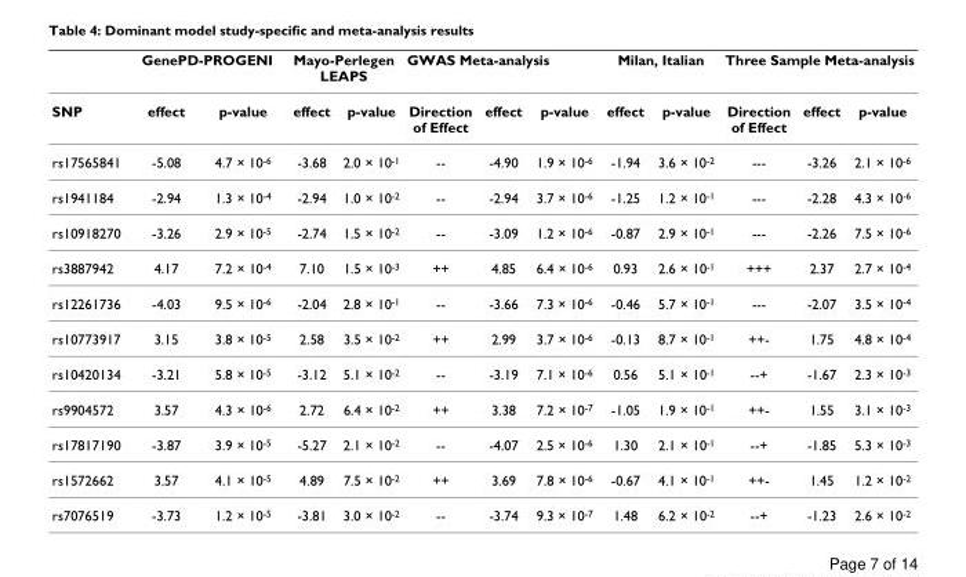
<table><thead><tr><td rowspan="2">SNP</td><td colspan="2">GenePD-PROGENI</td><td colspan="2">Mayo-Perlegen LEAPS</td><td colspan="3">GWAS Meta-analysis</td><td colspan="2">Milan, Italian</td><td colspan="3">Three Sample Meta-analysis</td></tr><tr><td>effect</td><td>p-value</td><td>effect</td><td>p-value</td><td>Direction of Effect</td><td>effect</td><td>p-value</td><td>effect</td><td>p-value</td><td>Direction of Effect</td><td>effect</td><td>p-value</td></tr></thead><tbody><tr><td>rs17565841</td><td>-5.08</td><td>4.7 × 10-6</td><td>-3.68</td><td>2.0 × 10-1</td><td>--</td><td>-4.90</td><td>1.9 × 10-6</td><td>-1.94</td><td>3.6 × 10-2</td><td>---</td><td>-3.26</td><td>2.1 × 10-6</td></tr><tr><td>rs1941184</td><td>-2.94</td><td>1.3 × 10-4</td><td>-2.94</td><td>1.0 × 10-2</td><td>--</td><td>-2.94</td><td>3.7 × 10-6</td><td>-1.25</td><td>1.2 × 10-1</td><td>---</td><td>-2.28</td><td>4.3 × 10-6</td></tr><tr><td>rs10918270</td><td>-3.26</td><td>2.9 × 10-5</td><td>-2.74</td><td>1.5 × 10-2</td><td>--</td><td>-3.09</td><td>1.2 × 10-6</td><td>-0.87</td><td>2.9 × 10-1</td><td>---</td><td>-2.26</td><td>7.5 × 10-6</td></tr><tr><td>rs3887942</td><td>4.17</td><td>7.2 × 10-4</td><td>7.10</td><td>1.5 × 10-3</td><td>++</td><td>4.85</td><td>6.4 × 10-6</td><td>0.93</td><td>2.6 × 10-1</td><td>+++</td><td>2.37</td><td>2.7 × 10-4</td></tr><tr><td>rs12261736</td><td>-4.03</td><td>9.5 × 10-6</td><td>-2.04</td><td>2.8 × 10-1</td><td>--</td><td>-3.66</td><td>7.3 × 10-6</td><td>-0.46</td><td>5.7 × 10-1</td><td>---</td><td>-2.07</td><td>3.5 × 10-4</td></tr><tr><td>rs10773917</td><td>3.15</td><td>3.8 × 10-5</td><td>2.58</td><td>3.5 × 10-2</td><td>++</td><td>2.99</td><td>3.7 × 10-6</td><td>-0.13</td><td>8.7 × 10-1</td><td>++-</td><td>1.75</td><td>4.8 × 10-4</td></tr><tr><td>rs10420134</td><td>-3.21</td><td>5.8 × 10-5</td><td>-3.12</td><td>5.1 × 10-2</td><td>--</td><td>-3.19</td><td>7.1 × 10-6</td><td>0.56</td><td>5.1 × 10-1</td><td>--+</td><td>-1.67</td><td>2.3 × 10-3</td></tr><tr><td>rs9904572</td><td>3.57</td><td>4.3 × 10-6</td><td>2.72</td><td>6.4 × 10-2</td><td>++</td><td>3.38</td><td>7.2 × 10-7</td><td>-1.05</td><td>1.9 × 10-1</td><td>++-</td><td>1.55</td><td>3.1 × 10-3</td></tr><tr><td>rs17817190</td><td>-3.87</td><td>3.9 × 10-5</td><td>-5.27</td><td>2.1 × 10-2</td><td>--</td><td>-4.07</td><td>2.5 × 10-6</td><td>1.30</td><td>2.1 × 10-1</td><td>--+</td><td>-1.85</td><td>5.3 × 10-3</td></tr><tr><td>rs1572662</td><td>3.57</td><td>4.1 × 10-5</td><td>4.89</td><td>7.5 × 10-2</td><td>++</td><td>3.69</td><td>7.8 × 10-6</td><td>-0.67</td><td>4.1 × 10-1</td><td>++-</td><td>1.45</td><td>1.2 × 10-2</td></tr><tr><td>rs7076519</td><td>-3.73</td><td>1.2 × 10-5</td><td>-3.81</td><td>3.0 × 10-2</td><td>--</td><td>-3.74</td><td>9.3 × 10-7</td><td>1.48</td><td>6.2 × 10-2</td><td>--+</td><td>-1.23</td><td>2.6 × 10-2</td></tr></tbody></table>